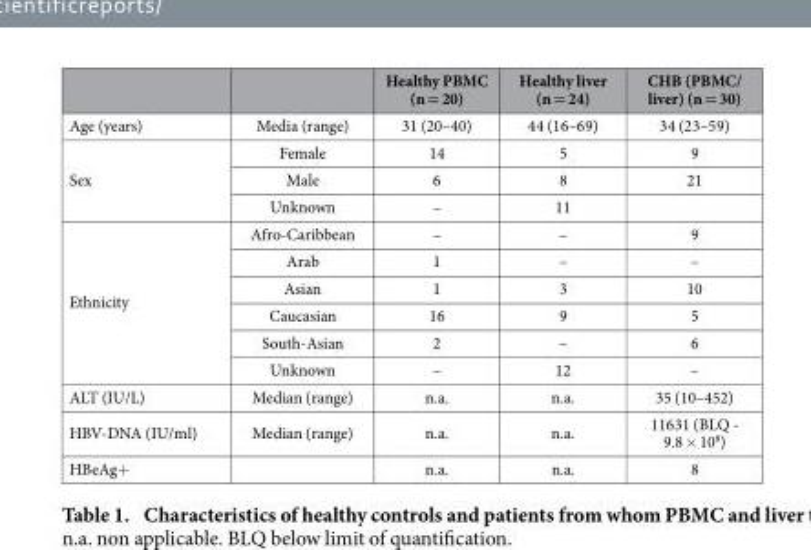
<table><thead><tr><td></td><td></td><td>Healthy PBMC (n = 20)</td><td>Healthy liver (n = 24)</td><td>CHB (PBMC/ liver) (n = 30)</td></tr></thead><tbody><tr><td>Age (years)</td><td>Media (range)</td><td>31 (20–40)</td><td>44 (16–69)</td><td>34 (23–59)</td></tr><tr><td rowspan="3">Sex</td><td>Female</td><td>14</td><td>5</td><td>9</td></tr><tr><td>Male</td><td>6</td><td>8</td><td>21</td></tr><tr><td>Unknown</td><td>–</td><td>11</td><td></td></tr><tr><td rowspan="6">Ethnicity</td><td>Afro-Caribbean</td><td>–</td><td>–</td><td>9</td></tr><tr><td>Arab</td><td>1</td><td>–</td><td>–</td></tr><tr><td>Asian</td><td>1</td><td>3</td><td>10</td></tr><tr><td>Caucasian</td><td>16</td><td>9</td><td>5</td></tr><tr><td>South-Asian</td><td>2</td><td>–</td><td>6</td></tr><tr><td>Unknown</td><td>–</td><td>12</td><td>–</td></tr><tr><td>ALT (IU/L)</td><td>Median (range)</td><td>n.a.</td><td>n.a.</td><td>35 (10–452)</td></tr><tr><td>HBV-DNA (IU/ml)</td><td>Median (range)</td><td>n.a.</td><td>n.a.</td><td>11631 (BLQ - 9.8 × 10<sup>8</sup>)</td></tr><tr><td>HBeAg+</td><td></td><td>n.a.</td><td>n.a.</td><td>8</td></tr></tbody></table>